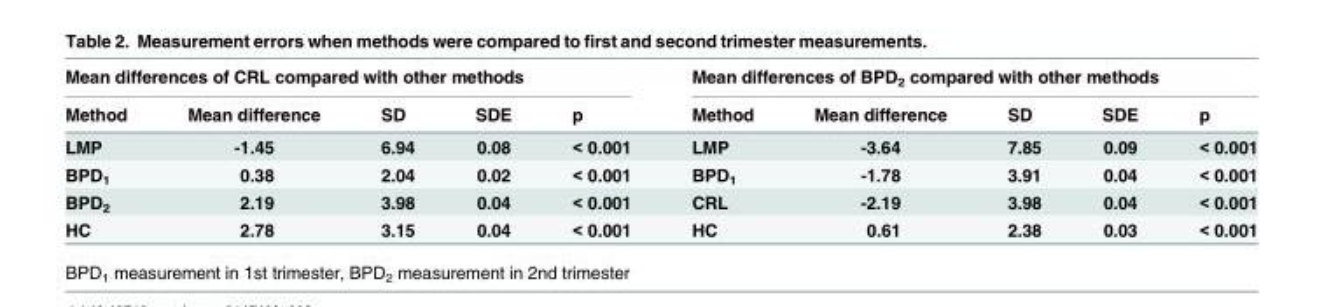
<table><thead><tr><td colspan="5">Mean differences of CRL compared with other methods</td><td colspan="5">Mean differences of BPD<sub>2</sub> compared with other methods</td></tr><tr><td>Method</td><td>Mean difference</td><td>SD</td><td>SDE</td><td>p</td><td>Method</td><td>Mean difference</td><td>SD</td><td>SDE</td><td>p</td></tr></thead><tbody><tr><td>LMP</td><td>-1.45</td><td>6.94</td><td>0.08</td><td>&lt; 0.001</td><td>LMP</td><td>-3.64</td><td>7.85</td><td>0.09</td><td>&lt; 0.001</td></tr><tr><td>BPD<sub>1</sub></td><td>0.38</td><td>2.04</td><td>0.02</td><td>&lt; 0.001</td><td>BPD<sub>1</sub></td><td>-1.78</td><td>3.91</td><td>0.04</td><td>&lt; 0.001</td></tr><tr><td>BPD<sub>2</sub></td><td>2.19</td><td>3.98</td><td>0.04</td><td>&lt; 0.001</td><td>CRL</td><td>-2.19</td><td>3.98</td><td>0.04</td><td>&lt; 0.001</td></tr><tr><td>HC</td><td>2.78</td><td>3.15</td><td>0.04</td><td>&lt; 0.001</td><td>HC</td><td>0.61</td><td>2.38</td><td>0.03</td><td>&lt; 0.001</td></tr></tbody></table>